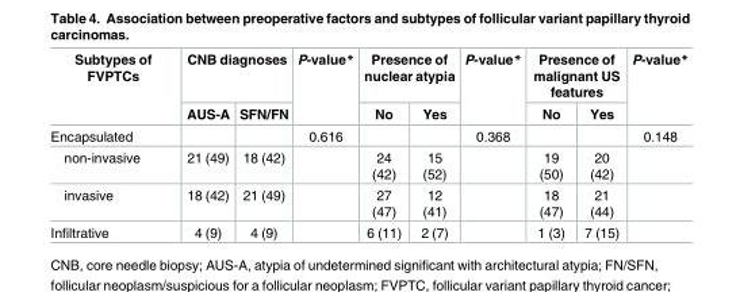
<table><thead><tr><td rowspan="2">Subtypes of FVPTCs</td><td colspan="2">CNB diagnoses</td><td rowspan="2">P-value*</td><td colspan="2">Presence of nuclear atypia</td><td rowspan="2">P-value*</td><td colspan="2">Presence of malignant US features</td><td rowspan="2">P-value*</td></tr><tr><td>AUS-A</td><td>SFN/FN</td><td>No</td><td>Yes</td><td>No</td><td>Yes</td></tr></thead><tbody><tr><td>Encapsulated</td><td></td><td></td><td>0.616</td><td></td><td></td><td>0.368</td><td></td><td></td><td>0.148</td></tr><tr><td>non-invasive</td><td>21 (49)</td><td>18 (42)</td><td></td><td>24 (42)</td><td>15 (52)</td><td></td><td>19 (50)</td><td>20 (42)</td><td></td></tr><tr><td>invasive</td><td>18 (42)</td><td>21 (49)</td><td></td><td>27 (47)</td><td>12 (41)</td><td></td><td>18 (47)</td><td>21 (44)</td><td></td></tr><tr><td>Infiltrative</td><td>4 (9)</td><td>4 (9)</td><td></td><td>6 (11)</td><td>2 (7)</td><td></td><td>1 (3)</td><td>7 (15)</td><td></td></tr></tbody></table>